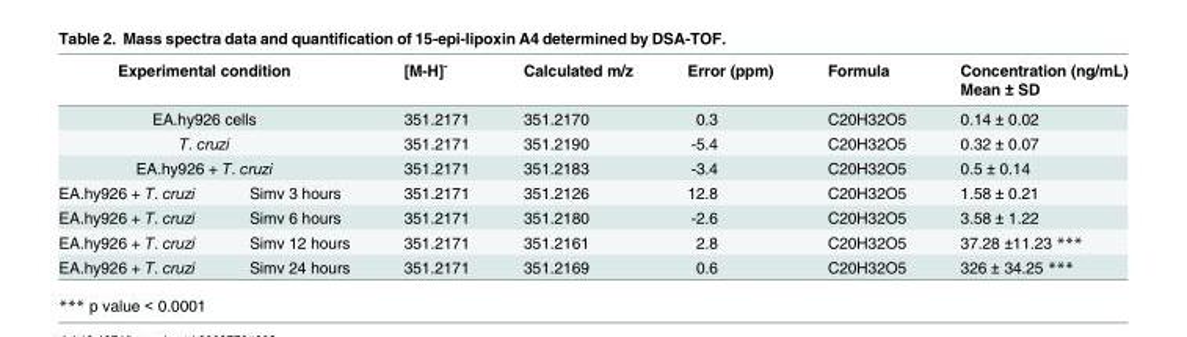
<table><thead><tr><td colspan="2">Experimental condition</td><td rowspan="2">[M-H]<sup>-</sup></td><td rowspan="2">Calculated m/z</td><td rowspan="2">Error (ppm)</td><td rowspan="2">Formula</td><td rowspan="2">Concentration (ng/mL) Mean ± SD</td></tr><tr><td></td><td></td></tr></thead><tbody><tr><td colspan="2">EA.hy926 cells</td><td>351.2171</td><td>351.2170</td><td>0.3</td><td>C20H32O5</td><td>0.14 ± 0.02</td></tr><tr><td colspan="2">T. cruzi</td><td>351.2171</td><td>351.2190</td><td>-5.4</td><td>C20H32O5</td><td>0.32 ± 0.07</td></tr><tr><td colspan="2">EA.hy926 + T. cruzi</td><td>351.2171</td><td>351.2183</td><td>-3.4</td><td>C20H32O5</td><td>0.5 ± 0.14</td></tr><tr><td>EA.hy926 + T. cruzi</td><td>Simv 3 hours</td><td>351.2171</td><td>351.2126</td><td>12.8</td><td>C20H32O5</td><td>1.58 ± 0.21</td></tr><tr><td>EA.hy926 + T. cruzi</td><td>Simv 6 hours</td><td>351.2171</td><td>351.2180</td><td>-2.6</td><td>C20H32O5</td><td>3.58 ± 1.22</td></tr><tr><td>EA.hy926 + T. cruzi</td><td>Simv 12 hours</td><td>351.2171</td><td>351.2161</td><td>2.8</td><td>C20H32O5</td><td>37.28 ±11.23 ***</td></tr><tr><td>EA.hy926 + T. cruzi</td><td>Simv 24 hours</td><td>351.2171</td><td>351.2169</td><td>0.6</td><td>C20H32O5</td><td>326 ± 34.25 ***</td></tr></tbody></table>